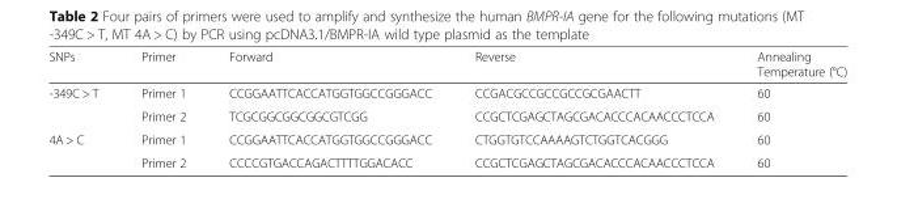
<table><thead><tr><td>SNPs</td><td>Primer</td><td>Forward</td><td>Reverse</td><td>Annealing Temperature (°C)</td></tr></thead><tbody><tr><td rowspan="2">-349C &gt; T</td><td>Primer 1</td><td>CCGGAATTCACCATGGTGGCCGGGACC</td><td>CCGACGCCGCCGCCGCGAACTT</td><td>60</td></tr><tr><td>Primer 2</td><td>TCGCGGCGGCGGCGTCGG</td><td>CCGCTCGAGCTAGCGACACCCACAACCCTCCA</td><td>60</td></tr><tr><td rowspan="2">4A &gt; C</td><td>Primer 1</td><td>CCGGAATTCACCATGGTGGCCGGGACC</td><td>CTGGTGTCCAAAAGTCTGGTCACGGG</td><td>60</td></tr><tr><td>Primer 2</td><td>CCCCGTGACCAGACTTTTGGACACC</td><td>CCGCTCGAGCTAGCGACACCCACAACCCTCCA</td><td>60</td></tr></tbody></table>